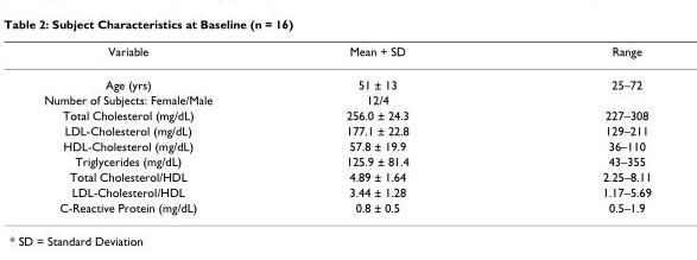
<table><thead><tr><td>Variable</td><td>Mean + SD</td><td>Range</td></tr></thead><tbody><tr><td>Age (yrs)</td><td>51 ± 13</td><td>25–72</td></tr><tr><td>Number of Subjects: Female/Male</td><td>12/4</td><td></td></tr><tr><td>Total Cholesterol (mg/dL)</td><td>256.0 ± 24.3</td><td>227–308</td></tr><tr><td>LDL-Cholesterol (mg/dL)</td><td>177.1 ± 22.8</td><td>129–211</td></tr><tr><td>HDL-Cholesterol (mg/dL)</td><td>57.8 ± 19.9</td><td>36–110</td></tr><tr><td>Triglycerides (mg/dL)</td><td>125.9 ± 81.4</td><td>43–355</td></tr><tr><td>Total Cholesterol/HDL</td><td>4.89 ± 1.64</td><td>2.25–8.11</td></tr><tr><td>LDL-Cholesterol/HDL</td><td>3.44 ± 1.28</td><td>1.17–5.69</td></tr><tr><td>C-Reactive Protein (mg/dL)</td><td>0.8 ± 0.5</td><td>0.5–1.9</td></tr></tbody></table>